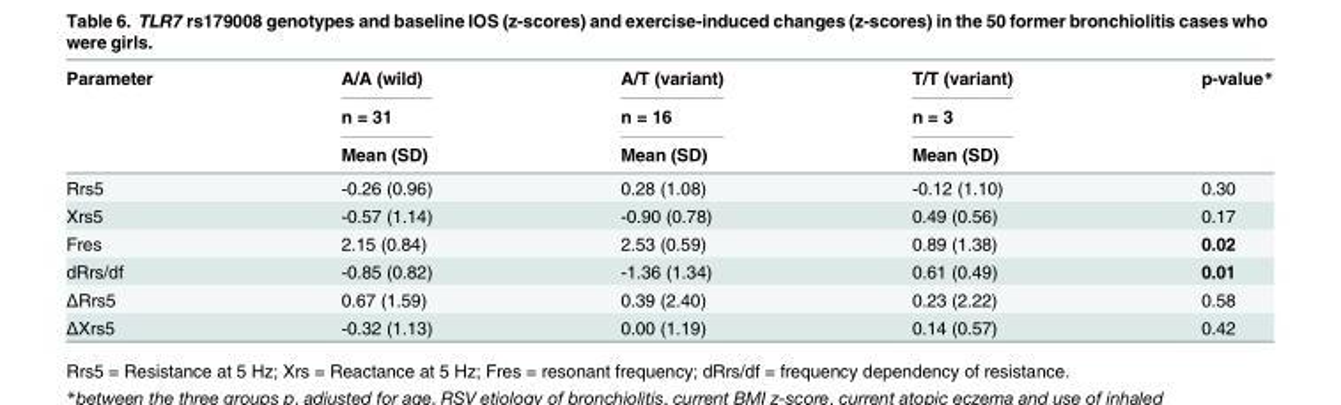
<table><thead><tr><td rowspan="3">Parameter</td><td rowspan="3">A/A (wild) n = 31 Mean (SD)</td><td rowspan="3">A/T (variant) n = 16 Mean (SD)</td><td rowspan="3">T/T (variant) n = 3 Mean (SD)</td><td rowspan="3">p-value*</td></tr><tr></tr><tr></tr></thead><tbody><tr><td>Rrs5</td><td>-0.26 (0.96)</td><td>0.28 (1.08)</td><td>-0.12 (1.10)</td><td>0.30</td></tr><tr><td>Xrs5</td><td>-0.57 (1.14)</td><td>-0.90 (0.78)</td><td>0.49 (0.56)</td><td>0.17</td></tr><tr><td>Fres</td><td>2.15 (0.84)</td><td>2.53 (0.59)</td><td>0.89 (1.38)</td><td>0.02</td></tr><tr><td>dRrs/df</td><td>-0.85 (0.82)</td><td>-1.36 (1.34)</td><td>0.61 (0.49)</td><td>0.01</td></tr><tr><td>ΔRrs5</td><td>0.67 (1.59)</td><td>0.39 (2.40)</td><td>0.23 (2.22)</td><td>0.58</td></tr><tr><td>ΔXrs5</td><td>-0.32 (1.13)</td><td>0.00 (1.19)</td><td>0.14 (0.57)</td><td>0.42</td></tr></tbody></table>